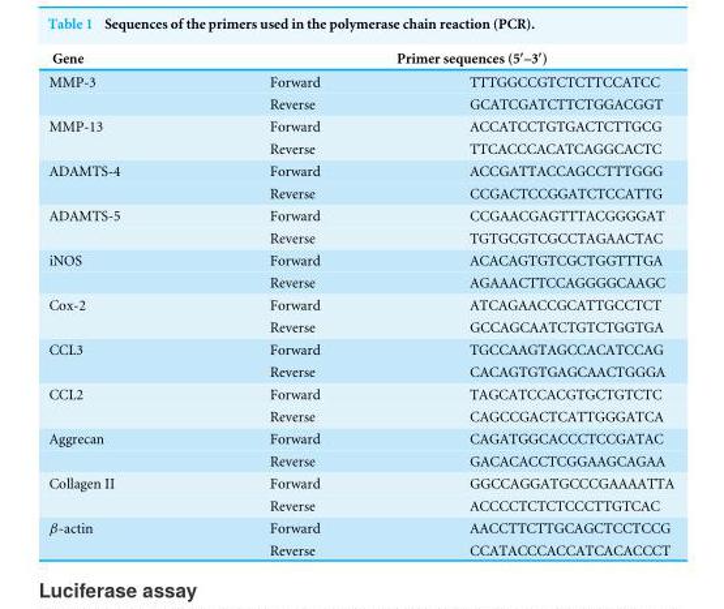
<table><thead><tr><td rowspan="2">Gene MMP-3</td><td colspan="2">Primer sequences (5′–3′)</td></tr><tr><td>Forward</td><td>TTTGGCCGTCTCTTCCATCC</td></tr></thead><tbody><tr><td></td><td>Reverse</td><td>GCATCGATCTTCTGGACGGT</td></tr><tr><td rowspan="2">MMP-13</td><td>Forward</td><td>ACCATCCTGTGACTCTTGCG</td></tr><tr><td>Reverse</td><td>TTCACCCACATCAGGCACTC</td></tr><tr><td rowspan="2">ADAMTS-4</td><td>Forward</td><td>ACCGATTACCAGCCTTTGGG</td></tr><tr><td>Reverse</td><td>CCGACTCCGGATCTCCATTG</td></tr><tr><td rowspan="2">ADAMTS-5</td><td>Forward</td><td>CCGAACGAGTTTACGGGGAT</td></tr><tr><td>Reverse</td><td>TGTGCGTCGCCTAGAACTAC</td></tr><tr><td rowspan="2">iNOS</td><td>Forward</td><td>ACACAGTGTCGCTGGTTTGA</td></tr><tr><td>Reverse</td><td>AGAAACTTCCAGGGGCAAGC</td></tr><tr><td rowspan="2">Cox-2</td><td>Forward</td><td>ATCAGAACCGCATTGCCTCT</td></tr><tr><td>Reverse</td><td>GCCAGCAATCTGTCTGGTGA</td></tr><tr><td rowspan="2">CCL3</td><td>Forward</td><td>TGCCAAGTAGCCACATCCAG</td></tr><tr><td>Reverse</td><td>CACAGTGTGAGCAACTGGGA</td></tr><tr><td rowspan="2">CCL2</td><td>Forward</td><td>TAGCATCCACGTGCTGTCTC</td></tr><tr><td>Reverse</td><td>CAGCCGACTCATTGGGATCA</td></tr><tr><td rowspan="2">Aggrecan</td><td>Forward</td><td>CAGATGGCACCCTCCGATAC</td></tr><tr><td>Reverse</td><td>GACACACCTCGGAAGCAGAA</td></tr><tr><td rowspan="2">Collagen II</td><td>Forward</td><td>GGCCAGGATGCCCGAAAATTA</td></tr><tr><td>Reverse</td><td>ACCCCTCTCTCCCTTGTCAC</td></tr><tr><td rowspan="2">β-actin</td><td>Forward</td><td>AACCTTCTTGCAGCTCCTCCG</td></tr><tr><td>Reverse</td><td>CCATACCCACCATCACACCCT</td></tr></tbody></table>